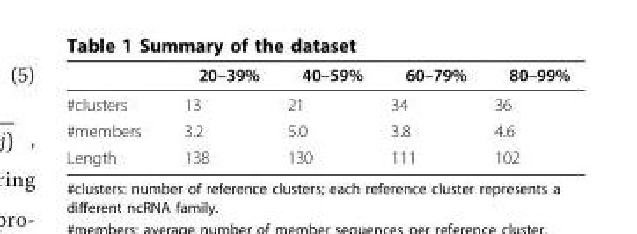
<table><thead><tr><td></td><td>20–39%</td><td>40–59%</td><td>60–79%</td><td>80–99%</td></tr></thead><tbody><tr><td>#clusters</td><td>13</td><td>21</td><td>34</td><td>36</td></tr><tr><td>#members</td><td>3.2</td><td>5.0</td><td>3.8</td><td>4.6</td></tr><tr><td>Length</td><td>138</td><td>130</td><td>111</td><td>102</td></tr></tbody></table>